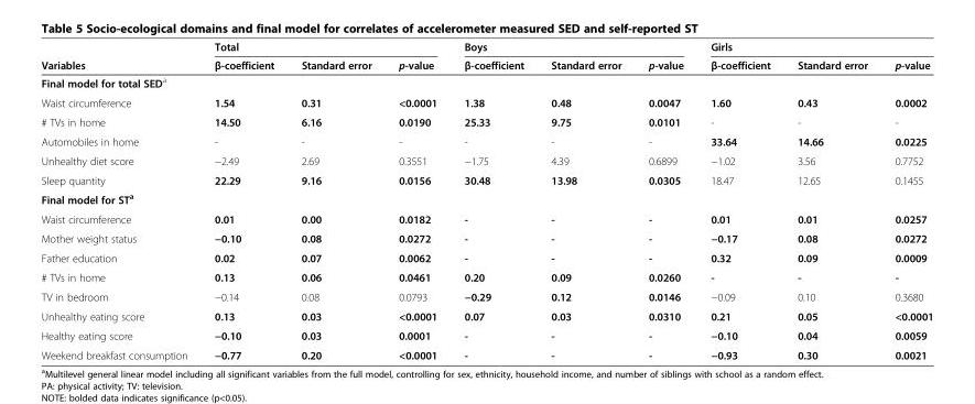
<table><thead><tr><td rowspan="2">Variables</td><td colspan="3">Total</td><td colspan="3">Boys</td><td colspan="3">Girls</td></tr><tr><td>β-coefficient</td><td>Standard error</td><td>p-value</td><td>β-coefficient</td><td>Standard error</td><td>p-value</td><td>β-coefficient</td><td>Standard error</td><td>p-value</td></tr></thead><tbody><tr><td colspan="10">Final model for total SED<sup>a</sup></td></tr><tr><td>Waist circumference</td><td>1.54</td><td>0.31</td><td>&lt;0.0001</td><td>1.38</td><td>0.48</td><td>0.0047</td><td>1.60</td><td>0.43</td><td>0.0002</td></tr><tr><td># TVs in home</td><td>14.50</td><td>6.16</td><td>0.0190</td><td>25.33</td><td>9.75</td><td>0.0101</td><td>-</td><td>-</td><td>-</td></tr><tr><td>Automobiles in home</td><td>-</td><td>-</td><td>-</td><td>-</td><td>-</td><td>-</td><td>33.64</td><td>14.66</td><td>0.0225</td></tr><tr><td>Unhealthy diet score</td><td>−2.49</td><td>2.69</td><td>0.3551</td><td>−1.75</td><td>4.39</td><td>0.6899</td><td>−1.02</td><td>3.56</td><td>0.7752</td></tr><tr><td>Sleep quantity</td><td>22.29</td><td>9.16</td><td>0.0156</td><td>30.48</td><td>13.98</td><td>0.0305</td><td>18.47</td><td>12.65</td><td>0.1455</td></tr><tr><td colspan="10">Final model for ST<sup>a</sup></td></tr><tr><td>Waist circumference</td><td>0.01</td><td>0.00</td><td>0.0182</td><td>-</td><td>-</td><td>-</td><td>0.01</td><td>0.01</td><td>0.0257</td></tr><tr><td>Mother weight status</td><td>−0.10</td><td>0.08</td><td>0.0272</td><td>-</td><td>-</td><td>-</td><td>−0.17</td><td>0.08</td><td>0.0272</td></tr><tr><td>Father education</td><td>0.02</td><td>0.07</td><td>0.0062</td><td>-</td><td>-</td><td>-</td><td>0.32</td><td>0.09</td><td>0.0009</td></tr><tr><td># TVs in home</td><td>0.13</td><td>0.06</td><td>0.0461</td><td>0.20</td><td>0.09</td><td>0.0260</td><td>-</td><td>-</td><td>-</td></tr><tr><td>TV in bedroom</td><td>−0.14</td><td>0.08</td><td>0.0793</td><td>−0.29</td><td>0.12</td><td>0.0146</td><td>−0.09</td><td>0.10</td><td>0.3680</td></tr><tr><td>Unhealthy eating score</td><td>0.13</td><td>0.03</td><td>&lt;0.0001</td><td>0.07</td><td>0.03</td><td>0.0310</td><td>0.21</td><td>0.05</td><td>&lt;0.0001</td></tr><tr><td>Healthy eating score</td><td>−0.10</td><td>0.03</td><td>0.0001</td><td>-</td><td>-</td><td>-</td><td>−0.10</td><td>0.04</td><td>0.0059</td></tr><tr><td>Weekend breakfast consumption</td><td>−0.77</td><td>0.20</td><td>&lt;0.0001</td><td>-</td><td>-</td><td>-</td><td>−0.93</td><td>0.30</td><td>0.0021</td></tr></tbody></table>